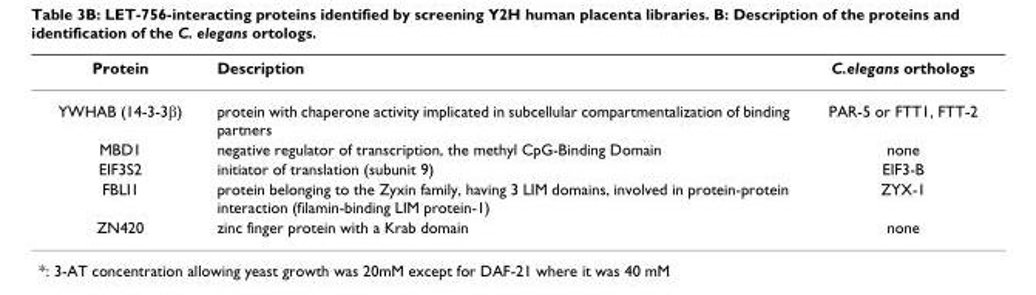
<table><thead><tr><td>Protein</td><td>Description</td><td>C.elegans orthologs</td></tr></thead><tbody><tr><td>YWHAB (14-3-3β)</td><td>protein with chaperone activity implicated in subcellular compartmentalization of binding partners</td><td>PAR-5 or FTT1, FTT-2</td></tr><tr><td>MBD1</td><td>negative regulator of transcription, the methyl CpG-Binding Domain</td><td>none</td></tr><tr><td>EIF3S2</td><td>initiator of translation (subunit 9)</td><td>EIF3-B</td></tr><tr><td>FBLI1</td><td>protein belonging to the Zyxin family, having 3 LIM domains, involved in protein-protein interaction (filamin-binding LIM protein-1)</td><td>ZYX-1</td></tr><tr><td>ZN420</td><td>zinc finger protein with a Krab domain</td><td>none</td></tr></tbody></table>